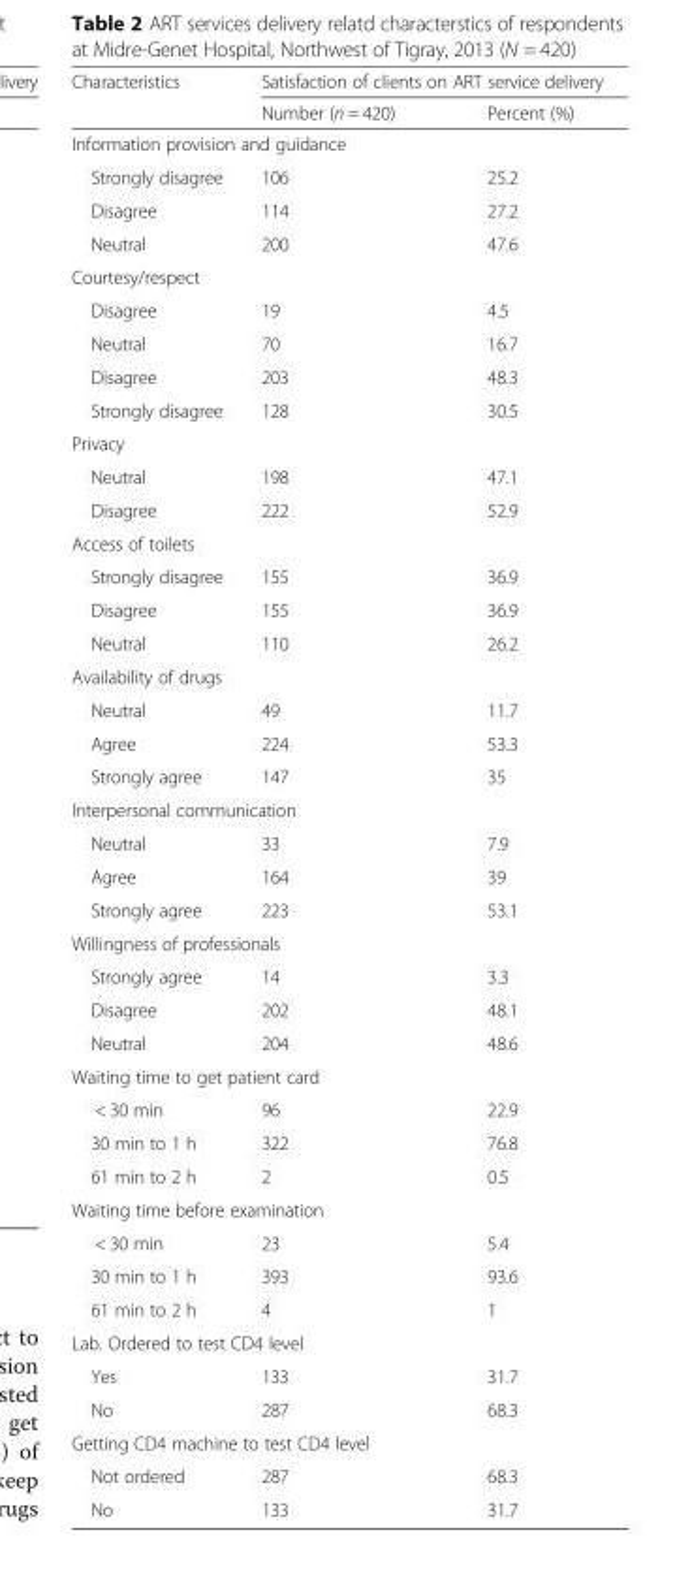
<table><thead><tr><td rowspan="2">Characteristics</td><td colspan="2">Satisfaction of clients on ART service delivery</td></tr><tr><td>Number (n = 420)</td><td>Percent (%)</td></tr></thead><tbody><tr><td colspan="3">Information provision and guidance</td></tr><tr><td>Strongly disagree</td><td>106</td><td>25.2</td></tr><tr><td>Disagree</td><td>114</td><td>27.2</td></tr><tr><td>Neutral</td><td>200</td><td>47.6</td></tr><tr><td colspan="3">Courtesy/respect</td></tr><tr><td>Disagree</td><td>19</td><td>4.5</td></tr><tr><td>Neutral</td><td>70</td><td>16.7</td></tr><tr><td>Disagree</td><td>203</td><td>48.3</td></tr><tr><td>Strongly disagree</td><td>128</td><td>30.5</td></tr><tr><td colspan="3">Privacy</td></tr><tr><td>Neutral</td><td>198</td><td>47.1</td></tr><tr><td>Disagree</td><td>222</td><td>52.9</td></tr><tr><td colspan="3">Access of toilets</td></tr><tr><td>Strongly disagree</td><td>155</td><td>36.9</td></tr><tr><td>Disagree</td><td>155</td><td>36.9</td></tr><tr><td>Neutral</td><td>110</td><td>26.2</td></tr><tr><td colspan="3">Availability of drugs</td></tr><tr><td>Neutral</td><td>49</td><td>11.7</td></tr><tr><td>Agree</td><td>224</td><td>53.3</td></tr><tr><td>Strongly agree</td><td>147</td><td>35</td></tr><tr><td colspan="3">Interpersonal communication</td></tr><tr><td>Neutral</td><td>33</td><td>7.9</td></tr><tr><td>Agree</td><td>164</td><td>39</td></tr><tr><td>Strongly agree</td><td>223</td><td>53.1</td></tr><tr><td colspan="3">Willingness of professionals</td></tr><tr><td>Strongly agree</td><td>14</td><td>3.3</td></tr><tr><td>Disagree</td><td>202</td><td>48.1</td></tr><tr><td>Neutral</td><td>204</td><td>48.6</td></tr><tr><td colspan="3">Waiting time to get patient card</td></tr><tr><td>&lt; 30 min</td><td>96</td><td>22.9</td></tr><tr><td>30 min to 1 h</td><td>322</td><td>76.8</td></tr><tr><td>61 min to 2 h</td><td>2</td><td>0.5</td></tr><tr><td colspan="3">Waiting time before examination</td></tr><tr><td>&lt; 30 min</td><td>23</td><td>5.4</td></tr><tr><td>30 min to 1 h</td><td>393</td><td>93.6</td></tr><tr><td>61 min to 2 h</td><td>4</td><td>1</td></tr><tr><td colspan="3">Lab. Ordered to test CD4 level</td></tr><tr><td>Yes</td><td>133</td><td>31.7</td></tr><tr><td>No</td><td>287</td><td>68.3</td></tr><tr><td colspan="3">Getting CD4 machine to test CD4 level</td></tr><tr><td>Not ordered</td><td>287</td><td>68.3</td></tr><tr><td>No</td><td>133</td><td>31.7</td></tr></tbody></table>